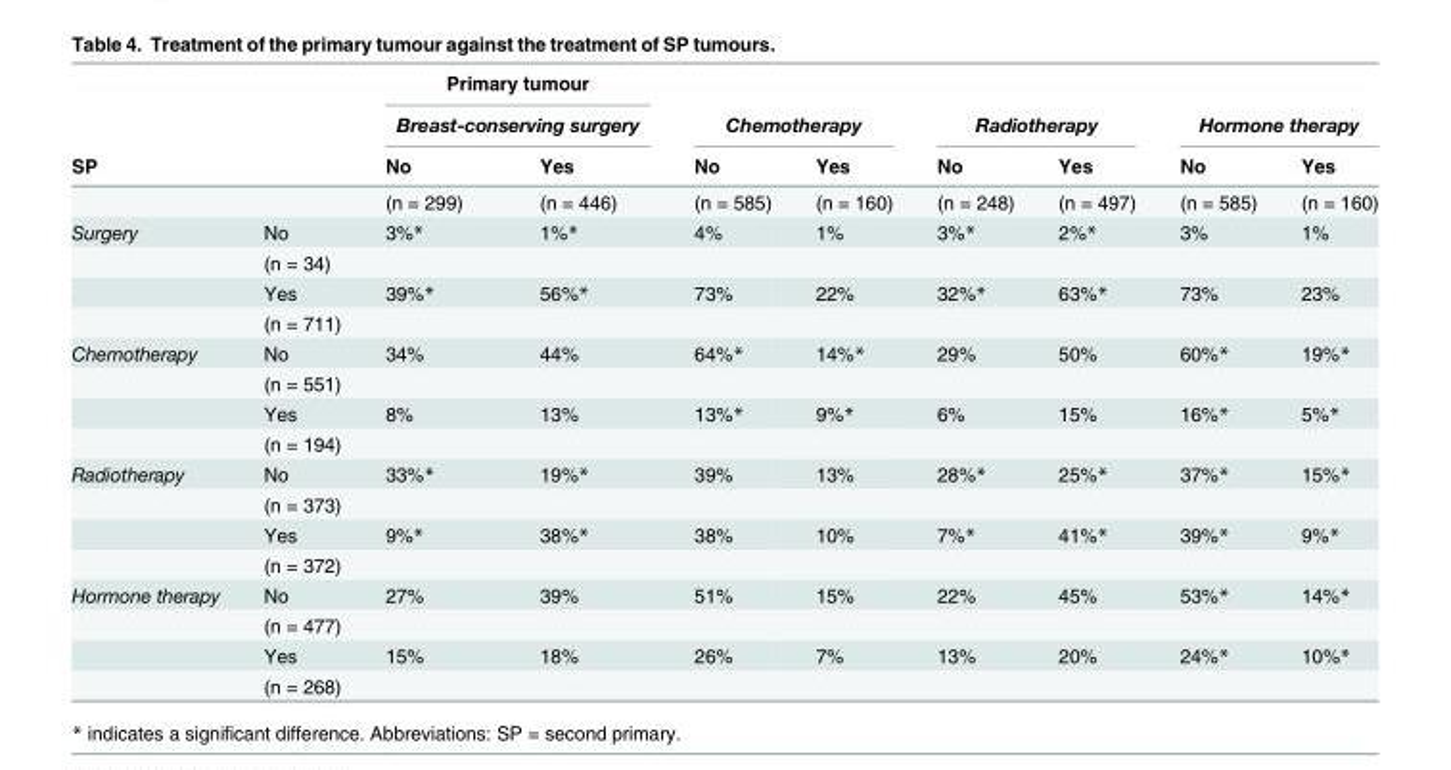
<table><thead><tr><td rowspan="3">SP</td><td rowspan="3"></td><td rowspan="2" colspan="2">Primary tumour Breast-conserving surgery</td><td></td><td></td><td></td><td></td><td></td><td></td></tr><tr><td colspan="2">Chemotherapy</td><td colspan="2">Radiotherapy</td><td colspan="2">Hormone therapy</td></tr><tr><td>No</td><td>Yes</td><td>No</td><td>Yes</td><td>No</td><td>Yes</td><td>No</td><td>Yes</td></tr></thead><tbody><tr><td></td><td></td><td>(n = 299)</td><td>(n = 446)</td><td>(n = 585)</td><td>(n = 160)</td><td>(n = 248)</td><td>(n = 497)</td><td>(n = 585)</td><td>(n = 160)</td></tr><tr><td rowspan="4">Surgery</td><td>No</td><td>3%*</td><td>1%*</td><td>4%</td><td>1%</td><td>3%*</td><td>2%*</td><td>3%</td><td>1%</td></tr><tr><td>(n = 34)</td><td></td><td></td><td></td><td></td><td></td><td></td><td></td><td></td></tr><tr><td>Yes</td><td>39%*</td><td>56%*</td><td>73%</td><td>22%</td><td>32%*</td><td>63%*</td><td>73%</td><td>23%</td></tr><tr><td>(n = 711)</td><td></td><td></td><td></td><td></td><td></td><td></td><td></td><td></td></tr><tr><td rowspan="4">Chemotherapy</td><td>No</td><td>34%</td><td>44%</td><td>64%*</td><td>14%*</td><td>29%</td><td>50%</td><td>60%*</td><td>19%*</td></tr><tr><td>(n = 551)</td><td></td><td></td><td></td><td></td><td></td><td></td><td></td><td></td></tr><tr><td>Yes</td><td>8%</td><td>13%</td><td>13%*</td><td>9%*</td><td>6%</td><td>15%</td><td>16%*</td><td>5%*</td></tr><tr><td>(n = 194)</td><td></td><td></td><td></td><td></td><td></td><td></td><td></td><td></td></tr><tr><td rowspan="4">Radiotherapy</td><td>No</td><td>33%*</td><td>19%*</td><td>39%</td><td>13%</td><td>28%*</td><td>25%*</td><td>37%*</td><td>15%*</td></tr><tr><td>(n = 373)</td><td></td><td></td><td></td><td></td><td></td><td></td><td></td><td></td></tr><tr><td>Yes</td><td>9%*</td><td>38%*</td><td>38%</td><td>10%</td><td>7%*</td><td>41%*</td><td>39%*</td><td>9%*</td></tr><tr><td>(n = 372)</td><td></td><td></td><td></td><td></td><td></td><td></td><td></td><td></td></tr><tr><td rowspan="4">Hormone therapy</td><td>No</td><td>27%</td><td>39%</td><td>51%</td><td>15%</td><td>22%</td><td>45%</td><td>53%*</td><td>14%*</td></tr><tr><td>(n = 477)</td><td></td><td></td><td></td><td></td><td></td><td></td><td></td><td></td></tr><tr><td>Yes</td><td>15%</td><td>18%</td><td>26%</td><td>7%</td><td>13%</td><td>20%</td><td>24%*</td><td>10%*</td></tr><tr><td>(n = 268)</td><td></td><td></td><td></td><td></td><td></td><td></td><td></td><td></td></tr></tbody></table>